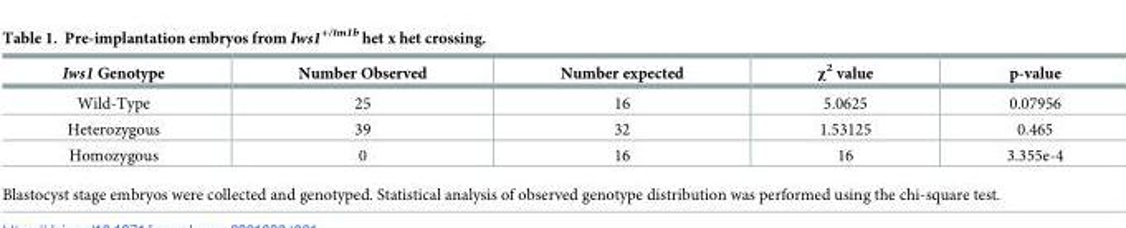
<table><thead><tr><td>Iws1 Genotype</td><td>Number Observed</td><td>Number expected</td><td>χ<sup>2</sup> value</td><td>p-value</td></tr></thead><tbody><tr><td>Wild-Type</td><td>25</td><td>16</td><td>5.0625</td><td>0.07956</td></tr><tr><td>Heterozygous</td><td>39</td><td>32</td><td>1.53125</td><td>0.465</td></tr><tr><td>Homozygous</td><td>0</td><td>16</td><td>16</td><td>3.355e-4</td></tr></tbody></table>